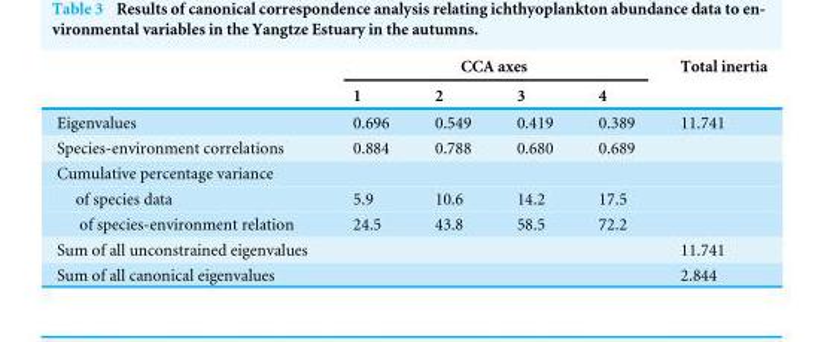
<table><thead><tr><td rowspan="2"></td><td colspan="4">CCA axes</td><td rowspan="2">Total inertia</td></tr><tr><td>1</td><td>2</td><td>3</td><td>4</td></tr></thead><tbody><tr><td>Eigenvalues</td><td>0.696</td><td>0.549</td><td>0.419</td><td>0.389</td><td>11.741</td></tr><tr><td>Species-environment correlations</td><td>0.884</td><td>0.788</td><td>0.680</td><td>0.689</td><td></td></tr><tr><td colspan="6">Cumulative percentage variance</td></tr><tr><td>of species data</td><td>5.9</td><td>10.6</td><td>14.2</td><td>17.5</td><td></td></tr><tr><td>of species-environment relation</td><td>24.5</td><td>43.8</td><td>58.5</td><td>72.2</td><td></td></tr><tr><td>Sum of all unconstrained eigenvalues</td><td></td><td></td><td></td><td></td><td>11.741</td></tr><tr><td>Sum of all canonical eigenvalues</td><td></td><td></td><td></td><td></td><td>2.844</td></tr></tbody></table>